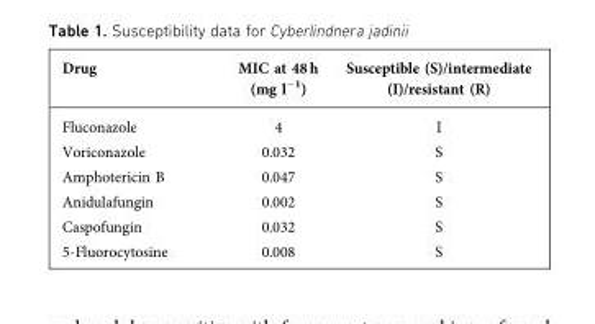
<table><thead><tr><td>Drug</td><td>MIC at 48 h (mg l<sup>−1</sup>)</td><td>Susceptible (S)/intermediate (I)/resistant (R)</td></tr></thead><tbody><tr><td>Fluconazole</td><td>4</td><td>I</td></tr><tr><td>Voriconazole</td><td>0.032</td><td>S</td></tr><tr><td>Amphotericin B</td><td>0.047</td><td>S</td></tr><tr><td>Anidulafungin</td><td>0.002</td><td>S</td></tr><tr><td>Caspofungin</td><td>0.032</td><td>S</td></tr><tr><td>5-Fluorocytosine</td><td>0.008</td><td>S</td></tr></tbody></table>